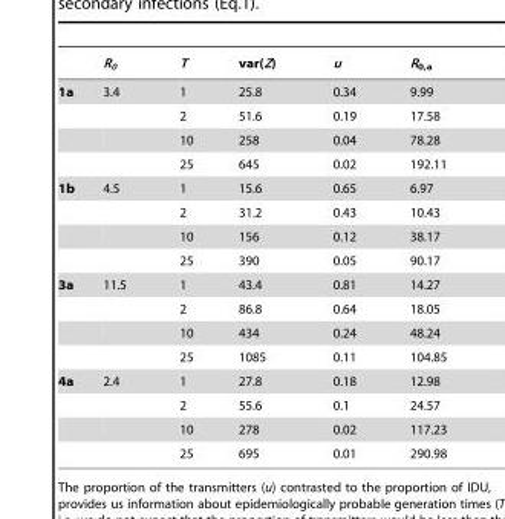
<table><thead><tr><td></td><td>R<sub>0</sub></td><td>T</td><td>var(Z)</td><td>u</td><td>R<sub>0,a</sub></td></tr></thead><tbody><tr><td rowspan="4">1a</td><td>3.4</td><td>1</td><td>25.8</td><td>0.34</td><td>9.99</td></tr><tr><td></td><td>2</td><td>51.6</td><td>0.19</td><td>17.58</td></tr><tr><td></td><td>10</td><td>258</td><td>0.04</td><td>78.28</td></tr><tr><td></td><td>25</td><td>645</td><td>0.02</td><td>192.11</td></tr><tr><td rowspan="4">1b</td><td>4.5</td><td>1</td><td>15.6</td><td>0.65</td><td>6.97</td></tr><tr><td></td><td>2</td><td>31.2</td><td>0.43</td><td>10.43</td></tr><tr><td></td><td>10</td><td>156</td><td>0.12</td><td>38.17</td></tr><tr><td></td><td>25</td><td>390</td><td>0.05</td><td>90.17</td></tr><tr><td rowspan="4">3a</td><td>11.5</td><td>1</td><td>43.4</td><td>0.81</td><td>14.27</td></tr><tr><td></td><td>2</td><td>86.8</td><td>0.64</td><td>18.05</td></tr><tr><td></td><td>10</td><td>434</td><td>0.24</td><td>48.24</td></tr><tr><td></td><td>25</td><td>1085</td><td>0.11</td><td>104.85</td></tr><tr><td rowspan="4">4a</td><td>2.4</td><td>1</td><td>27.8</td><td>0.18</td><td>12.98</td></tr><tr><td></td><td>2</td><td>55.6</td><td>0.1</td><td>24.57</td></tr><tr><td></td><td>10</td><td>278</td><td>0.02</td><td>117.23</td></tr><tr><td></td><td>25</td><td>695</td><td>0.01</td><td>290.98</td></tr></tbody></table>